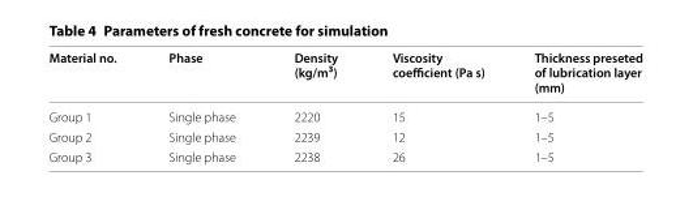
<table><thead><tr><td>Material no.</td><td>Phase</td><td>Density (kg/m<sup>3</sup>)</td><td>Viscosity coefficient (Pa s)</td><td>Thickness preseted of lubrication layer (mm)</td></tr></thead><tbody><tr><td>Group 1</td><td>Single phase</td><td>2220</td><td>15</td><td>1–5</td></tr><tr><td>Group 2</td><td>Single phase</td><td>2239</td><td>12</td><td>1–5</td></tr><tr><td>Group 3</td><td>Single phase</td><td>2238</td><td>26</td><td>1–5</td></tr></tbody></table>